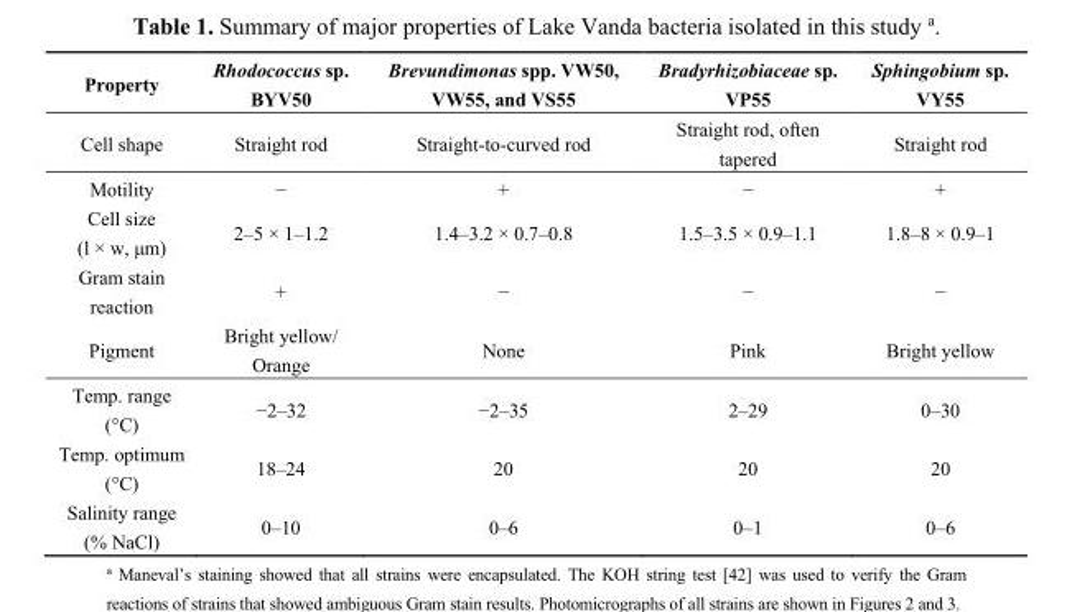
<table><thead><tr><td>Property</td><td>Rhodococcus sp. BYV50</td><td>Brevundimonas spp. VW50, VW55, and VS55</td><td>Bradyrhizobiaceae sp. VP55</td><td>Sphingobium sp. VY55</td></tr></thead><tbody><tr><td>Cell shape</td><td>Straight rod</td><td>Straight-to-curved rod</td><td>Straight rod, often tapered</td><td>Straight rod</td></tr><tr><td>Motility</td><td>−</td><td>+</td><td>−</td><td>+</td></tr><tr><td>Cell size (l × w, μm)</td><td>2–5 × 1–1.2</td><td>1.4–3.2 × 0.7–0.8</td><td>1.5–3.5 × 0.9–1.1</td><td>1.8–8 × 0.9–1</td></tr><tr><td>Gram stain reaction</td><td>+</td><td>−</td><td>−</td><td>−</td></tr><tr><td>Pigment</td><td>Bright yellow/ Orange</td><td>None</td><td>Pink</td><td>Bright yellow</td></tr><tr><td>Temp. range (°C)</td><td>−2–32</td><td>−2–35</td><td>2–29</td><td>0–30</td></tr><tr><td>Temp. optimum (°C)</td><td>18–24</td><td>20</td><td>20</td><td>20</td></tr><tr><td>Salinity range (% NaCl)</td><td>0–10</td><td>0–6</td><td>0–1</td><td>0–6</td></tr></tbody></table>